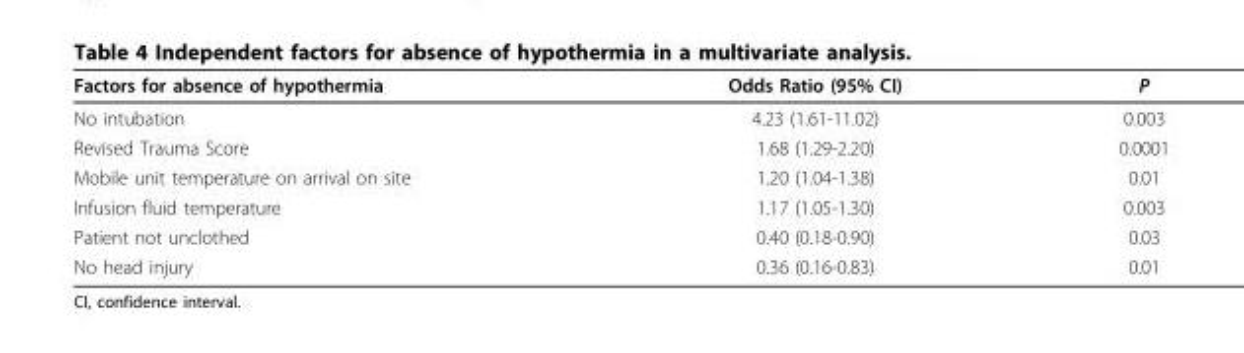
<table><thead><tr><td>Factors for absence of hypothermia</td><td>Odds Ratio (95% CI)</td><td>P</td></tr></thead><tbody><tr><td>No intubation</td><td>4.23 (1.61-11.02)</td><td>0.003</td></tr><tr><td>Revised Trauma Score</td><td>1.68 (1.29-2.20)</td><td>0.0001</td></tr><tr><td>Mobile unit temperature on arrival on site</td><td>1.20 (1.04-1.38)</td><td>0.01</td></tr><tr><td>Infusion fluid temperature</td><td>1.17 (1.05-1.30)</td><td>0.003</td></tr><tr><td>Patient not unclothed</td><td>0.40 (0.18-0.90)</td><td>0.03</td></tr><tr><td>No head injury</td><td>0.36 (0.16-0.83)</td><td>0.01</td></tr></tbody></table>